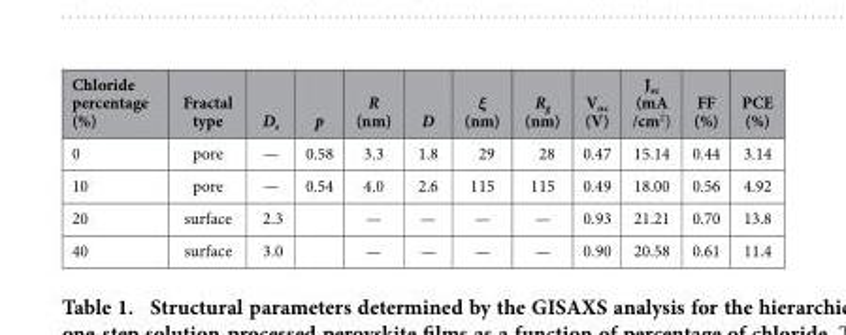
<table><thead><tr><td>Chloride percentage (%)</td><td>Fractal type</td><td>D<sub>s</sub></td><td>p</td><td>R (nm)</td><td>D</td><td>ξ (nm)</td><td>R<sub>g</sub> (nm)</td><td>V<sub>oc</sub> (V)</td><td>J<sub>sc</sub> (mA /cm<sup>2</sup>)</td><td>FF (%)</td><td>PCE (%)</td></tr></thead><tbody><tr><td>0</td><td>pore</td><td>—</td><td>0.58</td><td>3.3</td><td>1.8</td><td>29</td><td>28</td><td>0.47</td><td>15.14</td><td>0.44</td><td>3.14</td></tr><tr><td>10</td><td>pore</td><td>—</td><td>0.54</td><td>4.0</td><td>2.6</td><td>115</td><td>115</td><td>0.49</td><td>18.00</td><td>0.56</td><td>4.92</td></tr><tr><td>20</td><td>surface</td><td>2.3</td><td></td><td>—</td><td>—</td><td>—</td><td>—</td><td>0.93</td><td>21.21</td><td>0.70</td><td>13.8</td></tr><tr><td>40</td><td>surface</td><td>3.0</td><td></td><td>—</td><td>—</td><td>—</td><td>—</td><td>0.90</td><td>20.58</td><td>0.61</td><td>11.4</td></tr></tbody></table>